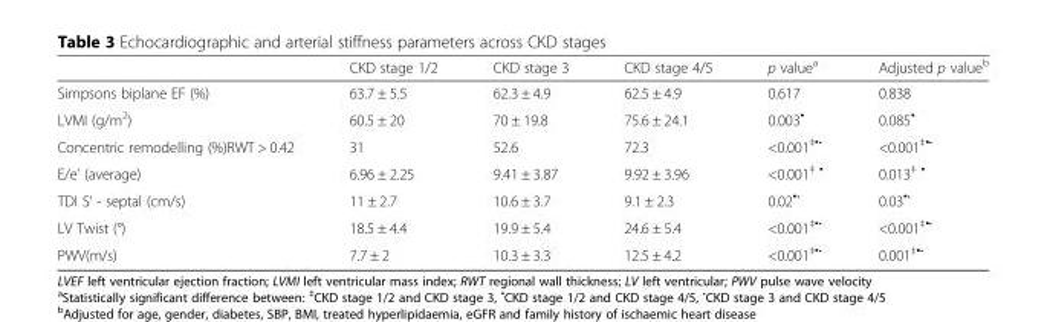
<table><thead><tr><td></td><td>CKD stage 1/2</td><td>CKD stage 3</td><td>CKD stage 4/5</td><td>p value<sup>a</sup></td><td>Adjusted p value<sup>b</sup></td></tr></thead><tbody><tr><td>Simpsons biplane EF (%)</td><td>63.7 ± 5.5</td><td>62.3 ± 4.9</td><td>62.5 ± 4.9</td><td>0.617</td><td>0.838</td></tr><tr><td>LVMI (g/m<sup>2</sup>)</td><td>60.5 ± 20</td><td>70 ± 19.8</td><td>75.6 ± 24.1</td><td>0.003<sup>▪</sup></td><td>0.085<sup>▪</sup></td></tr><tr><td>Concentric remodelling (%)RWT &gt; 0.42</td><td>31</td><td>52.6</td><td>72.3</td><td>&lt;0.001<sup>‡▪•</sup></td><td>&lt;0.001<sup>‡▪•</sup></td></tr><tr><td>E/e’ (average)</td><td>6.96 ± 2.25</td><td>9.41 ± 3.87</td><td>9.92 ± 3.96</td><td>&lt;0.001<sup>‡ ▪</sup></td><td>0.013<sup>‡ ▪</sup></td></tr><tr><td>TDI S’ - septal (cm/s)</td><td>11 ± 2.7</td><td>10.6 ± 3.7</td><td>9.1 ± 2.3</td><td>0.02<sup>▪•</sup></td><td>0.03<sup>▪•</sup></td></tr><tr><td>LV Twist (°)</td><td>18.5 ± 4.4</td><td>19.9 ± 5.4</td><td>24.6 ± 5.4</td><td>&lt;0.001<sup>‡▪•</sup></td><td>&lt;0.001<sup>‡▪•</sup></td></tr><tr><td>PWV(m/s)</td><td>7.7 ± 2</td><td>10.3 ± 3.3</td><td>12.5 ± 4.2</td><td>&lt;0.001<sup>‡▪•</sup></td><td>0.001<sup>‡▪•</sup></td></tr></tbody></table>